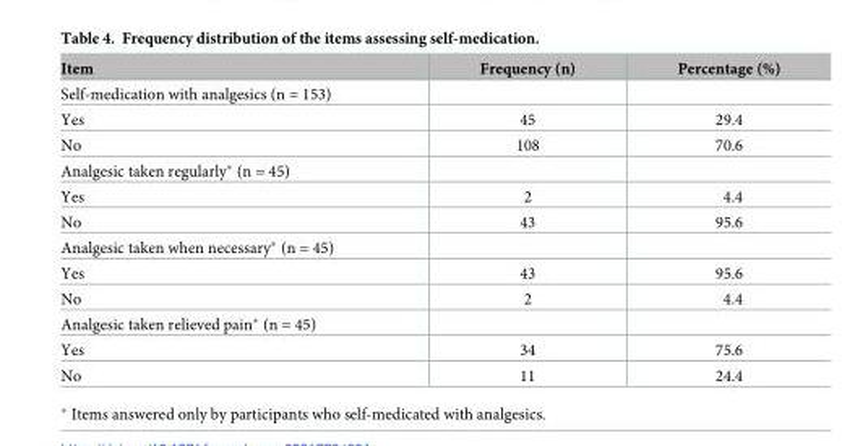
<table><thead><tr><td>Item</td><td>Frequency (n)</td><td>Percentage (%)</td></tr></thead><tbody><tr><td colspan="3">Self-medication with analgesics (n = 153)</td></tr><tr><td>Yes</td><td>45</td><td>29.4</td></tr><tr><td>No</td><td>108</td><td>70.6</td></tr><tr><td colspan="3">Analgesic taken regularly* (n = 45)</td></tr><tr><td>Yes</td><td>2</td><td>4.4</td></tr><tr><td>No</td><td>43</td><td>95.6</td></tr><tr><td colspan="3">Analgesic taken when necessary* (n = 45)</td></tr><tr><td>Yes</td><td>43</td><td>95.6</td></tr><tr><td>No</td><td>2</td><td>4.4</td></tr><tr><td colspan="3">Analgesic taken relieved pain* (n = 45)</td></tr><tr><td>Yes</td><td>34</td><td>75.6</td></tr><tr><td>No</td><td>11</td><td>24.4</td></tr></tbody></table>